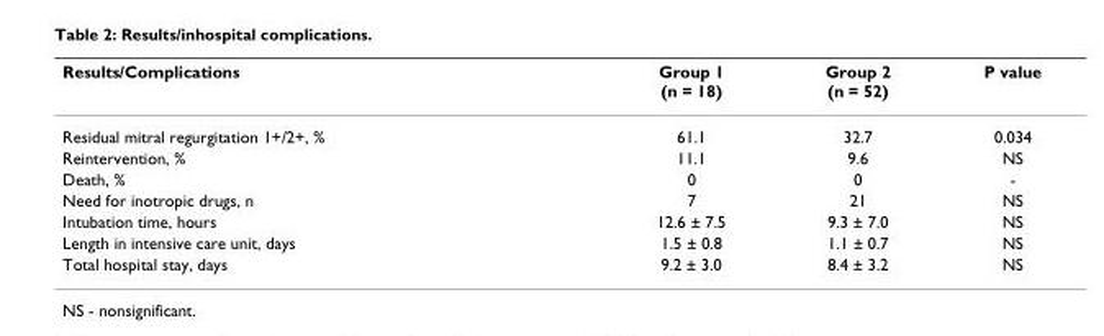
<table><thead><tr><td>Results/Complications</td><td>Group 1 (n = 18)</td><td>Group 2 (n = 52)</td><td>P value</td></tr></thead><tbody><tr><td>Residual mitral regurgitation 1+/2+, %</td><td>61.1</td><td>32.7</td><td>0.034</td></tr><tr><td>Reintervention, %</td><td>11.1</td><td>9.6</td><td>NS</td></tr><tr><td>Death, %</td><td>0</td><td>0</td><td>-</td></tr><tr><td>Need for inotropic drugs, n</td><td>7</td><td>21</td><td>NS</td></tr><tr><td>Intubation time, hours</td><td>12.6 ± 7.5</td><td>9.3 ± 7.0</td><td>NS</td></tr><tr><td>Length in intensive care unit, days</td><td>1.5 ± 0.8</td><td>1.1 ± 0.7</td><td>NS</td></tr><tr><td>Total hospital stay, days</td><td>9.2 ± 3.0</td><td>8.4 ± 3.2</td><td>NS</td></tr></tbody></table>